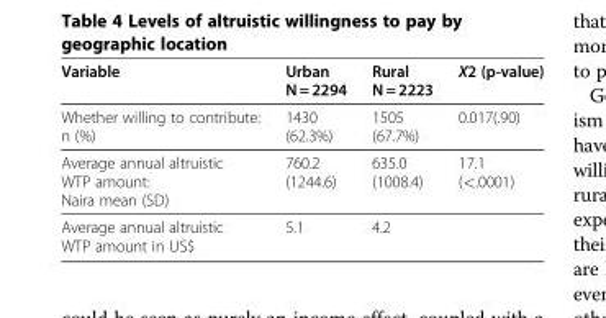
<table><thead><tr><td>Variable</td><td>Urban N = 2294</td><td>Rural N = 2223</td><td>X2 (p-value)</td></tr></thead><tbody><tr><td>Whether willing to contribute: n (%)</td><td>1430 (62.3%)</td><td>1505 (67.7%)</td><td>0.017(.90)</td></tr><tr><td>Average annual altruistic WTP amount: Naira mean (SD)</td><td>760.2 (1244.6)</td><td>635.0 (1008.4)</td><td>17.1 (&lt;.0001)</td></tr><tr><td>Average annual altruistic WTP amount in US$</td><td>5.1</td><td>4.2</td><td></td></tr></tbody></table>